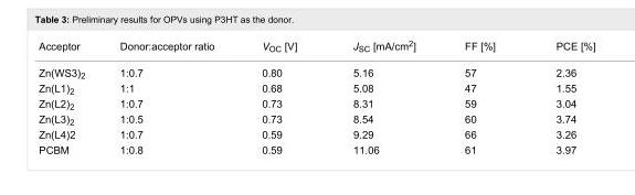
<table><tbody><tr><td>Acceptor</td><td>Donor:acceptor ratio</td><td>V<sub>OC</sub> [V]</td><td>J<sub>SC</sub> [mA/cm<sup>2</sup>]</td><td>FF [%]</td><td>PCE [%]</td></tr><tr><td>Zn(WS3)<sub>2</sub></td><td>1:0.7</td><td>0.80</td><td>5.16</td><td>57</td><td>2.36</td></tr><tr><td>Zn(L1)<sub>2</sub></td><td>1:1</td><td>0.68</td><td>5.08</td><td>47</td><td>1.55</td></tr><tr><td>Zn(L2)<sub>2</sub></td><td>1:0.7</td><td>0.73</td><td>8.31</td><td>59</td><td>3.04</td></tr><tr><td>Zn(L3)<sub>2</sub></td><td>1:0.5</td><td>0.73</td><td>8.54</td><td>60</td><td>3.74</td></tr><tr><td>Zn(L4)2</td><td>1:0.7</td><td>0.59</td><td>9.29</td><td>66</td><td>3.26</td></tr><tr><td>PCBM</td><td>1:0.8</td><td>0.59</td><td>11.06</td><td>61</td><td>3.97</td></tr></tbody></table>